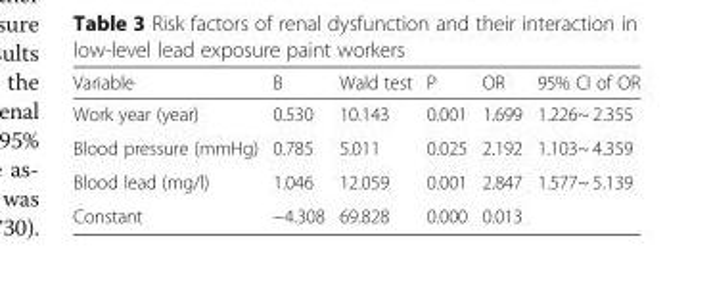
<table><thead><tr><td>Variable</td><td>B</td><td>Wald test</td><td>P</td><td>OR</td><td>95% CI of OR</td></tr></thead><tbody><tr><td>Work year (year)</td><td>0.530</td><td>10.143</td><td>0.001</td><td>1.699</td><td>1.226~ 2.355</td></tr><tr><td>Blood pressure (mmHg)</td><td>0.785</td><td>5.011</td><td>0.025</td><td>2.192</td><td>1.103~ 4.359</td></tr><tr><td>Blood lead (mg/l)</td><td>1.046</td><td>12.059</td><td>0.001</td><td>2.847</td><td>1.577~ 5.139</td></tr><tr><td>Constant</td><td>−4.308</td><td>69.828</td><td>0.000</td><td>0.013</td><td></td></tr></tbody></table>